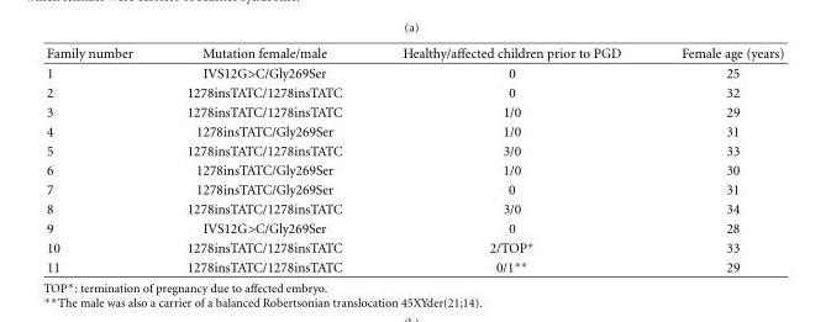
<table><thead><tr><td>Family number</td><td>Mutation female/male</td><td>Healthy/affected children prior to PGD</td><td>Female age (years)</td></tr></thead><tbody><tr><td>1</td><td>IVS12G&gt;C/Gly269Ser</td><td>0</td><td>25</td></tr><tr><td>2</td><td>1278insTATC/1278insTATC</td><td>0</td><td>32</td></tr><tr><td>3</td><td>1278insTATC/1278insTATC</td><td>1/0</td><td>29</td></tr><tr><td>4</td><td>1278insTATC/Gly269Ser</td><td>1/0</td><td>31</td></tr><tr><td>5</td><td>1278insTATC/1278insTATC</td><td>3/0</td><td>33</td></tr><tr><td>6</td><td>1278insTATC/Gly269Ser</td><td>1/0</td><td>30</td></tr><tr><td>7</td><td>1278insTATC/Gly269Ser</td><td>0</td><td>31</td></tr><tr><td>8</td><td>1278insTATC/1278insTATC</td><td>3/0</td><td>34</td></tr><tr><td>9</td><td>IVS12G&gt;C/Gly269Ser</td><td>0</td><td>28</td></tr><tr><td>10</td><td>1278insTATC/1278insTATC</td><td>2/TOP∗</td><td>33</td></tr><tr><td>11</td><td>1278insTATC/1278insTATC</td><td>0/1∗∗</td><td>29</td></tr></tbody></table>